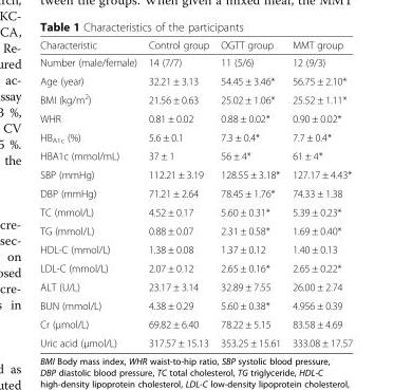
<table><thead><tr><td>Characteristic</td><td>Control group</td><td>OGTT group</td><td>MMT group</td></tr></thead><tbody><tr><td>Number (male/female)</td><td>14 (7/7)</td><td>11 (5/6)</td><td>12 (9/3)</td></tr><tr><td>Age (year)</td><td>32.21 ± 3.13</td><td>54.45 ± 3.46*</td><td>56.75 ± 2.10*</td></tr><tr><td>BMI (kg/m<sup>2</sup>)</td><td>21.56 ± 0.63</td><td>25.02 ± 1.06*</td><td>25.52 ± 1.11*</td></tr><tr><td>WHR</td><td>0.81 ± 0.02</td><td>0.88 ± 0.02*</td><td>0.90 ± 0.02*</td></tr><tr><td>HB<sub>A1c</sub> (%)</td><td>5.6 ± 0.1</td><td>7.3 ± 0.4*</td><td>7.7 ± 0.4*</td></tr><tr><td>HBA1c (mmol/mL)</td><td>37 ± 1</td><td>56 ± 4*</td><td>61 ± 4*</td></tr><tr><td>SBP (mmHg)</td><td>112.21 ± 3.19</td><td>128.55 ± 3.18*</td><td>127.17 ± 4.43*</td></tr><tr><td>DBP (mmHg)</td><td>71.21 ± 2.64</td><td>78.45 ± 1.76*</td><td>74.33 ± 1.38</td></tr><tr><td>TC (mmol/L)</td><td>4.52 ± 0.17</td><td>5.60 ± 0.31*</td><td>5.39 ± 0.23*</td></tr><tr><td>TG (mmol/L)</td><td>0.88 ± 0.07</td><td>2.31 ± 0.58*</td><td>1.69 ± 0.40*</td></tr><tr><td>HDL-C (mmol/L)</td><td>1.38 ± 0.08</td><td>1.37 ± 0.12</td><td>1.40 ± 0.13</td></tr><tr><td>LDL-C (mmol/L)</td><td>2.07 ± 0.12</td><td>2.65 ± 0.16*</td><td>2.65 ± 0.22*</td></tr><tr><td>ALT (U/L)</td><td>23.17 ± 3.14</td><td>32.89 ± 7.55</td><td>26.00 ± 2.74</td></tr><tr><td>BUN (mmol/L)</td><td>4.38 ± 0.29</td><td>5.60 ± 0.38*</td><td>4.956 ± 0.39</td></tr><tr><td>Cr (μmol/L)</td><td>69.82 ± 6.40</td><td>78.22 ± 5.15</td><td>83.58 ± 4.69</td></tr><tr><td>Uric acid (μmol/L)</td><td>317.57 ± 15.13</td><td>353.25 ± 15.61</td><td>333.08 ± 17.57</td></tr></tbody></table>